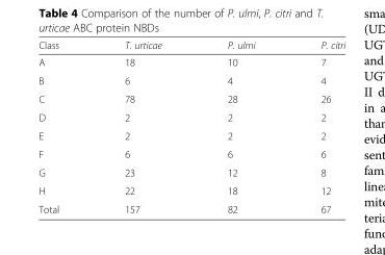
<table><thead><tr><td>Class</td><td>T. urticae</td><td>P. ulmi</td><td>P. citri</td></tr></thead><tbody><tr><td>A</td><td>18</td><td>10</td><td>7</td></tr><tr><td>B</td><td>6</td><td>4</td><td>4</td></tr><tr><td>C</td><td>78</td><td>28</td><td>26</td></tr><tr><td>D</td><td>2</td><td>2</td><td>2</td></tr><tr><td>E</td><td>2</td><td>2</td><td>2</td></tr><tr><td>F</td><td>6</td><td>6</td><td>6</td></tr><tr><td>G</td><td>23</td><td>12</td><td>8</td></tr><tr><td>H</td><td>22</td><td>18</td><td>12</td></tr><tr><td>Total</td><td>157</td><td>82</td><td>67</td></tr></tbody></table>